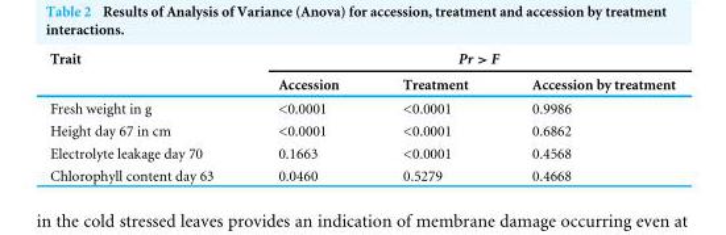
<table><thead><tr><td rowspan="2">Trait</td><td colspan="3">Pr &gt; F</td></tr><tr><td>Accession</td><td>Treatment</td><td>Accession by treatment</td></tr></thead><tbody><tr><td>Fresh weight in g</td><td>&lt;0.0001</td><td>&lt;0.0001</td><td>0.9986</td></tr><tr><td>Height day 67 in cm</td><td>&lt;0.0001</td><td>&lt;0.0001</td><td>0.6862</td></tr><tr><td>Electrolyte leakage day 70</td><td>0.1663</td><td>&lt;0.0001</td><td>0.4568</td></tr><tr><td>Chlorophyll content day 63</td><td>0.0460</td><td>0.5279</td><td>0.4668</td></tr></tbody></table>